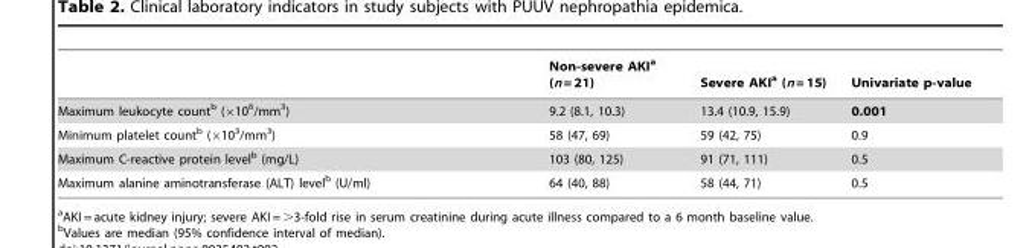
<table><thead><tr><td></td><td>Non-severe AKI<sup>a</sup> (n = 21)</td><td>Severe AKI<sup>a</sup> (n = 15)</td><td>Univariate p-value</td></tr></thead><tbody><tr><td>Maximum leukocyte count<sup>b</sup> (×10<sup>6</sup>/mm<sup>3</sup>)</td><td>9.2 (8.1, 10.3)</td><td>13.4 (10.9, 15.9)</td><td>0.001</td></tr><tr><td>Minimum platelet count<sup>b</sup> (×10<sup>3</sup>/mm<sup>3</sup>)</td><td>58 (47, 69)</td><td>59 (42, 75)</td><td>0.9</td></tr><tr><td>Maximum C-reactive protein level<sup>b</sup> (mg/L)</td><td>103 (80, 125)</td><td>91 (71, 111)</td><td>0.5</td></tr><tr><td>Maximum alanine aminotransferase (ALT) level<sup>b</sup> (U/ml)</td><td>64 (40, 88)</td><td>58 (44, 71)</td><td>0.5</td></tr></tbody></table>